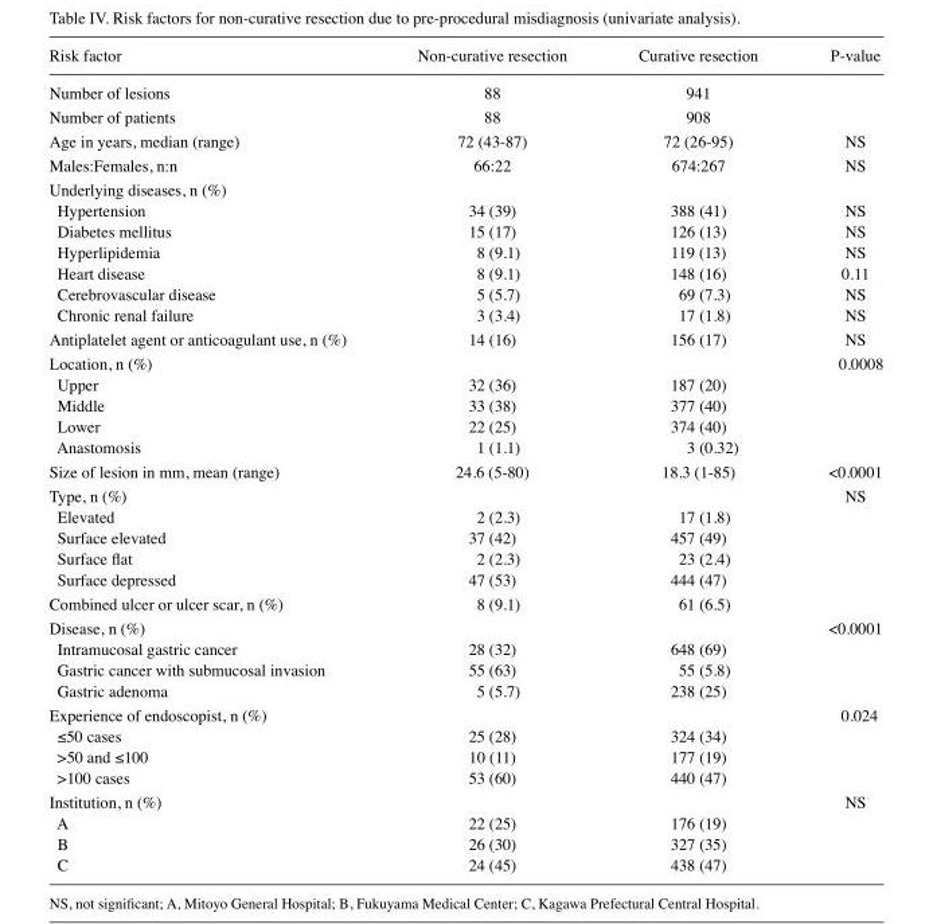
<table><thead><tr><td>Risk factor</td><td>Non-curative resection</td><td>Curative resection</td><td>P-value</td></tr></thead><tbody><tr><td>Number of lesions</td><td>88</td><td>941</td><td></td></tr><tr><td>Number of patients</td><td>88</td><td>908</td><td></td></tr><tr><td>Age in years, median (range)</td><td>72 (43-87)</td><td>72 (26-95)</td><td>NS</td></tr><tr><td>Males:Females, n:n</td><td>66:22</td><td>674:267</td><td>NS</td></tr><tr><td colspan="4">Underlying diseases, n (%)</td></tr><tr><td>Hypertension</td><td>34 (39)</td><td>388 (41)</td><td>NS</td></tr><tr><td>Diabetes mellitus</td><td>15 (17)</td><td>126 (13)</td><td>NS</td></tr><tr><td>Hyperlipidemia</td><td>8 (9.1)</td><td>119 (13)</td><td>NS</td></tr><tr><td>Heart disease</td><td>8 (9.1)</td><td>148 (16)</td><td>0.11</td></tr><tr><td>Cerebrovascular disease</td><td>5 (5.7)</td><td>69 (7.3)</td><td>NS</td></tr><tr><td>Chronic renal failure</td><td>3 (3.4)</td><td>17 (1.8)</td><td>NS</td></tr><tr><td>Antiplatelet agent or anticoagulant use, n (%)</td><td>14 (16)</td><td>156 (17)</td><td>NS</td></tr><tr><td>Location, n (%)</td><td></td><td></td><td>0.0008</td></tr><tr><td>Upper</td><td>32 (36)</td><td>187 (20)</td><td></td></tr><tr><td>Middle</td><td>33 (38)</td><td>377 (40)</td><td></td></tr><tr><td>Lower</td><td>22 (25)</td><td>374 (40)</td><td></td></tr><tr><td>Anastomosis</td><td>1 (1.1)</td><td>3 (0.32)</td><td></td></tr><tr><td>Size of lesion in mm, mean (range)</td><td>24.6 (5-80)</td><td>18.3 (1-85)</td><td>&lt;0.0001</td></tr><tr><td>Type, n (%)</td><td></td><td></td><td>NS</td></tr><tr><td>Elevated</td><td>2 (2.3)</td><td>17 (1.8)</td><td></td></tr><tr><td>Surface elevated</td><td>37 (42)</td><td>457 (49)</td><td></td></tr><tr><td>Surface flat</td><td>2 (2.3)</td><td>23 (2.4)</td><td></td></tr><tr><td>Surface depressed</td><td>47 (53)</td><td>444 (47)</td><td></td></tr><tr><td>Combined ulcer or ulcer scar, n (%)</td><td>8 (9.1)</td><td>61 (6.5)</td><td></td></tr><tr><td>Disease, n (%)</td><td></td><td></td><td>&lt;0.0001</td></tr><tr><td>Intramucosal gastric cancer</td><td>28 (32)</td><td>648 (69)</td><td></td></tr><tr><td>Gastric cancer with submucosal invasion</td><td>55 (63)</td><td>55 (5.8)</td><td></td></tr><tr><td>Gastric adenoma</td><td>5 (5.7)</td><td>238 (25)</td><td></td></tr><tr><td>Experience of endoscopist, n (%)</td><td></td><td></td><td>0.024</td></tr><tr><td>≤50 cases</td><td>25 (28)</td><td>324 (34)</td><td></td></tr><tr><td>&gt;50 and ≤100</td><td>10 (11)</td><td>177 (19)</td><td></td></tr><tr><td>&gt;100 cases</td><td>53 (60)</td><td>440 (47)</td><td></td></tr><tr><td>Institution, n (%)</td><td></td><td></td><td>NS</td></tr><tr><td>A</td><td>22 (25)</td><td>176 (19)</td><td></td></tr><tr><td>B</td><td>26 (30)</td><td>327 (35)</td><td></td></tr><tr><td>C</td><td>24 (45)</td><td>438 (47)</td><td></td></tr></tbody></table>